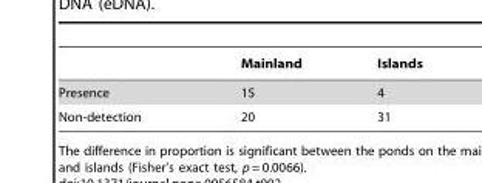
<table><thead><tr><td></td><td>Mainland</td><td>Islands</td></tr></thead><tbody><tr><td>Presence</td><td>15</td><td>4</td></tr><tr><td>Non-detection</td><td>20</td><td>31</td></tr></tbody></table>